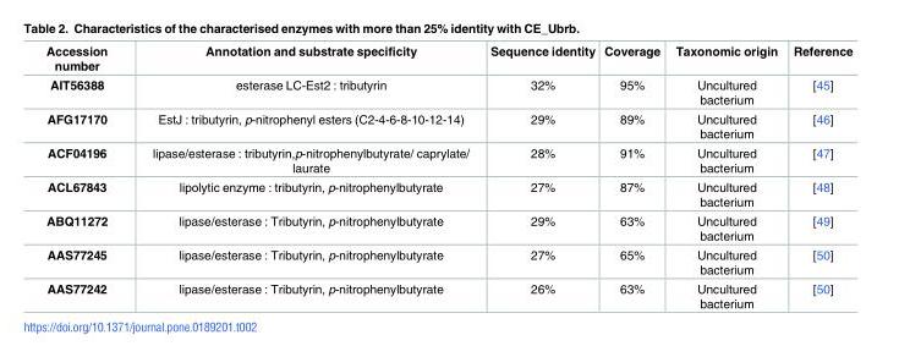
<table><thead><tr><td>Accession number</td><td>Annotation and substrate specificity</td><td>Sequence identity</td><td>Coverage</td><td>Taxonomic origin</td><td>Reference</td></tr></thead><tbody><tr><td>AIT56388</td><td>esterase LC-Est2 : tributyrin</td><td>32%</td><td>95%</td><td>Uncultured bacterium</td><td>[45]</td></tr><tr><td>AFG17170</td><td>EstJ : tributyrin, p-nitrophenyl esters (C2-4-6-8-10-12-14)</td><td>29%</td><td>89%</td><td>Uncultured bacterium</td><td>[46]</td></tr><tr><td>ACF04196</td><td>lipase/esterase : tributyrin,p-nitrophenylbutyrate/ caprylate/ laurate</td><td>28%</td><td>91%</td><td>Uncultured bacterium</td><td>[47]</td></tr><tr><td>ACL67843</td><td>lipolytic enzyme : tributyrin, p-nitrophenylbutyrate</td><td>27%</td><td>87%</td><td>Uncultured bacterium</td><td>[48]</td></tr><tr><td>ABQ11272</td><td>lipase/esterase : Tributyrin, p-nitrophenylbutyrate</td><td>29%</td><td>63%</td><td>Uncultured bacterium</td><td>[49]</td></tr><tr><td>AAS77245</td><td>lipase/esterase : Tributyrin, p-nitrophenylbutyrate</td><td>27%</td><td>65%</td><td>Uncultured bacterium</td><td>[50]</td></tr><tr><td>AAS77242</td><td>lipase/esterase : Tributyrin, p-nitrophenylbutyrate</td><td>26%</td><td>63%</td><td>Uncultured bacterium</td><td>[50]</td></tr></tbody></table>